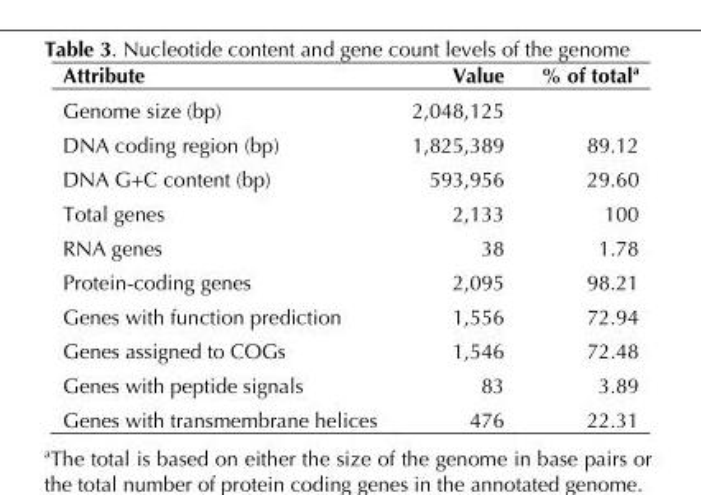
<table><thead><tr><td>Attribute</td><td>Value</td><td>% of total<sup>a</sup></td></tr></thead><tbody><tr><td>Genome size (bp)</td><td>2,048,125</td><td></td></tr><tr><td>DNA coding region (bp)</td><td>1,825,389</td><td>89.12</td></tr><tr><td>DNA G+C content (bp)</td><td>593,956</td><td>29.60</td></tr><tr><td>Total genes</td><td>2,133</td><td>100</td></tr><tr><td>RNA genes</td><td>38</td><td>1.78</td></tr><tr><td>Protein-coding genes</td><td>2,095</td><td>98.21</td></tr><tr><td>Genes with function prediction</td><td>1,556</td><td>72.94</td></tr><tr><td>Genes assigned to COGs</td><td>1,546</td><td>72.48</td></tr><tr><td>Genes with peptide signals</td><td>83</td><td>3.89</td></tr><tr><td>Genes with transmembrane helices</td><td>476</td><td>22.31</td></tr></tbody></table>